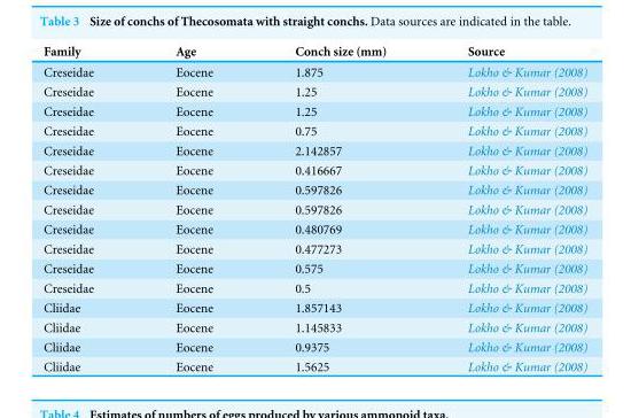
<table><thead><tr><td>Family</td><td>Age</td><td>Conch size (mm)</td><td>Source</td></tr></thead><tbody><tr><td>Creseidae</td><td>Eocene</td><td>1.875</td><td>Lokho &amp; Kumar (2008)</td></tr><tr><td>Creseidae</td><td>Eocene</td><td>1.25</td><td>Lokho &amp; Kumar (2008)</td></tr><tr><td>Creseidae</td><td>Eocene</td><td>1.25</td><td>Lokho &amp; Kumar (2008)</td></tr><tr><td>Creseidae</td><td>Eocene</td><td>0.75</td><td>Lokho &amp; Kumar (2008)</td></tr><tr><td>Creseidae</td><td>Eocene</td><td>2.142857</td><td>Lokho &amp; Kumar (2008)</td></tr><tr><td>Creseidae</td><td>Eocene</td><td>0.416667</td><td>Lokho &amp; Kumar (2008)</td></tr><tr><td>Creseidae</td><td>Eocene</td><td>0.597826</td><td>Lokho &amp; Kumar (2008)</td></tr><tr><td>Creseidae</td><td>Eocene</td><td>0.597826</td><td>Lokho &amp; Kumar (2008)</td></tr><tr><td>Creseidae</td><td>Eocene</td><td>0.480769</td><td>Lokho &amp; Kumar (2008)</td></tr><tr><td>Creseidae</td><td>Eocene</td><td>0.477273</td><td>Lokho &amp; Kumar (2008)</td></tr><tr><td>Creseidae</td><td>Eocene</td><td>0.575</td><td>Lokho &amp; Kumar (2008)</td></tr><tr><td>Creseidae</td><td>Eocene</td><td>0.5</td><td>Lokho &amp; Kumar (2008)</td></tr><tr><td>Cliidae</td><td>Eocene</td><td>1.857143</td><td>Lokho &amp; Kumar (2008)</td></tr><tr><td>Cliidae</td><td>Eocene</td><td>1.145833</td><td>Lokho &amp; Kumar (2008)</td></tr><tr><td>Cliidae</td><td>Eocene</td><td>0.9375</td><td>Lokho &amp; Kumar (2008)</td></tr><tr><td>Cliidae</td><td>Eocene</td><td>1.5625</td><td>Lokho &amp; Kumar (2008)</td></tr></tbody></table>